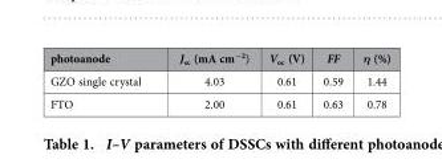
<table><thead><tr><td>photoanode</td><td>J<sub>sc</sub> (mA cm<sup>−2</sup>)</td><td>V<sub>oc</sub> (V)</td><td>FF</td><td>η (%)</td></tr></thead><tbody><tr><td>GZO single crystal</td><td>4.03</td><td>0.61</td><td>0.59</td><td>1.44</td></tr><tr><td>FTO</td><td>2.00</td><td>0.61</td><td>0.63</td><td>0.78</td></tr></tbody></table>